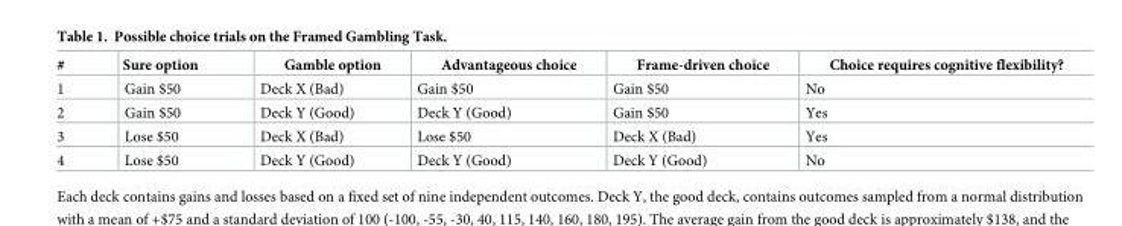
<table><thead><tr><td>#</td><td>Sure option</td><td>Gamble option</td><td>Advantageous choice</td><td>Frame-driven choice</td><td>Choice requires cognitive flexibility?</td></tr></thead><tbody><tr><td>1</td><td>Gain $50</td><td>Deck X (Bad)</td><td>Gain $50</td><td>Gain $50</td><td>No</td></tr><tr><td>2</td><td>Gain $50</td><td>Deck Y (Good)</td><td>Deck Y (Good)</td><td>Gain $50</td><td>Yes</td></tr><tr><td>3</td><td>Lose $50</td><td>Deck X (Bad)</td><td>Lose $50</td><td>Deck X (Bad)</td><td>Yes</td></tr><tr><td>4</td><td>Lose $50</td><td>Deck Y (Good)</td><td>Deck Y (Good)</td><td>Deck Y (Good)</td><td>No</td></tr></tbody></table>